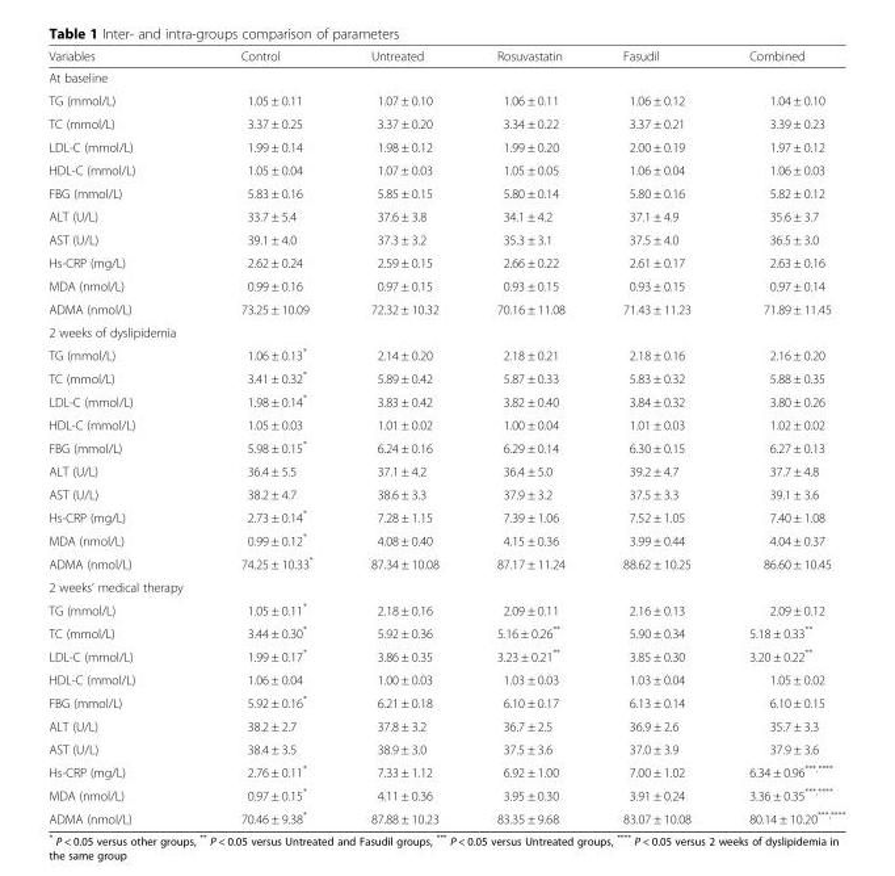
<table><thead><tr><td>Variables</td><td>Control</td><td>Untreated</td><td>Rosuvastatin</td><td>Fasudil</td><td>Combined</td></tr></thead><tbody><tr><td colspan="6">At baseline</td></tr><tr><td>TG (mmol/L)</td><td>1.05 ± 0.11</td><td>1.07 ± 0.10</td><td>1.06 ± 0.11</td><td>1.06 ± 0.12</td><td>1.04 ± 0.10</td></tr><tr><td>TC (mmol/L)</td><td>3.37 ± 0.25</td><td>3.37 ± 0.20</td><td>3.34 ± 0.22</td><td>3.37 ± 0.21</td><td>3.39 ± 0.23</td></tr><tr><td>LDL-C (mmol/L)</td><td>1.99 ± 0.14</td><td>1.98 ± 0.12</td><td>1.99 ± 0.20</td><td>2.00 ± 0.19</td><td>1.97 ± 0.12</td></tr><tr><td>HDL-C (mmol/L)</td><td>1.05 ± 0.04</td><td>1.07 ± 0.03</td><td>1.05 ± 0.05</td><td>1.06 ± 0.04</td><td>1.06 ± 0.03</td></tr><tr><td>FBG (mmol/L)</td><td>5.83 ± 0.16</td><td>5.85 ± 0.15</td><td>5.80 ± 0.14</td><td>5.80 ± 0.16</td><td>5.82 ± 0.12</td></tr><tr><td>ALT (U/L)</td><td>33.7 ± 5.4</td><td>37.6 ± 3.8</td><td>34.1 ± 4.2</td><td>37.1 ± 4.9</td><td>35.6 ± 3.7</td></tr><tr><td>AST (U/L)</td><td>39.1 ± 4.0</td><td>37.3 ± 3.2</td><td>35.3 ± 3.1</td><td>37.5 ± 4.0</td><td>36.5 ± 3.0</td></tr><tr><td>Hs-CRP (mg/L)</td><td>2.62 ± 0.24</td><td>2.59 ± 0.15</td><td>2.66 ± 0.22</td><td>2.61 ± 0.17</td><td>2.63 ± 0.16</td></tr><tr><td>MDA (nmol/L)</td><td>0.99 ± 0.16</td><td>0.97 ± 0.15</td><td>0.93 ± 0.15</td><td>0.93 ± 0.15</td><td>0.97 ± 0.14</td></tr><tr><td>ADMA (nmol/L)</td><td>73.25 ± 10.09</td><td>72.32 ± 10.32</td><td>70.16 ± 11.08</td><td>71.43 ± 11.23</td><td>71.89 ± 11.45</td></tr><tr><td colspan="6">2 weeks of dyslipidemia</td></tr><tr><td>TG (mmol/L)</td><td>1.06 ± 0.13*</td><td>2.14 ± 0.20</td><td>2.18 ± 0.21</td><td>2.18 ± 0.16</td><td>2.16 ± 0.20</td></tr><tr><td>TC (mmol/L)</td><td>3.41 ± 0.32*</td><td>5.89 ± 0.42</td><td>5.87 ± 0.33</td><td>5.83 ± 0.32</td><td>5.88 ± 0.35</td></tr><tr><td>LDL-C (mmol/L)</td><td>1.98 ± 0.14*</td><td>3.83 ± 0.42</td><td>3.82 ± 0.40</td><td>3.84 ± 0.32</td><td>3.80 ± 0.26</td></tr><tr><td>HDL-C (mmol/L)</td><td>1.05 ± 0.03</td><td>1.01 ± 0.02</td><td>1.00 ± 0.04</td><td>1.01 ± 0.03</td><td>1.02 ± 0.02</td></tr><tr><td>FBG (mmol/L)</td><td>5.98 ± 0.15*</td><td>6.24 ± 0.16</td><td>6.29 ± 0.14</td><td>6.30 ± 0.15</td><td>6.27 ± 0.13</td></tr><tr><td>ALT (U/L)</td><td>36.4 ± 5.5</td><td>37.1 ± 4.2</td><td>36.4 ± 5.0</td><td>39.2 ± 4.7</td><td>37.7 ± 4.8</td></tr><tr><td>AST (U/L)</td><td>38.2 ± 4.7</td><td>38.6 ± 3.3</td><td>37.9 ± 3.2</td><td>37.5 ± 3.3</td><td>39.1 ± 3.6</td></tr><tr><td>Hs-CRP (mg/L)</td><td>2.73 ± 0.14*</td><td>7.28 ± 1.15</td><td>7.39 ± 1.06</td><td>7.52 ± 1.05</td><td>7.40 ± 1.08</td></tr><tr><td>MDA (nmol/L)</td><td>0.99 ± 0.12*</td><td>4.08 ± 0.40</td><td>4.15 ± 0.36</td><td>3.99 ± 0.44</td><td>4.04 ± 0.37</td></tr><tr><td>ADMA (nmol/L)</td><td>74.25 ± 10.33*</td><td>87.34 ± 10.08</td><td>87.17 ± 11.24</td><td>88.62 ± 10.25</td><td>86.60 ± 10.45</td></tr><tr><td colspan="6">2 weeks’ medical therapy</td></tr><tr><td>TG (mmol/L)</td><td>1.05 ± 0.11*</td><td>2.18 ± 0.16</td><td>2.09 ± 0.11</td><td>2.16 ± 0.13</td><td>2.09 ± 0.12</td></tr><tr><td>TC (mmol/L)</td><td>3.44 ± 0.30*</td><td>5.92 ± 0.36</td><td>5.16 ± 0.26**</td><td>5.90 ± 0.34</td><td>5.18 ± 0.33**</td></tr><tr><td>LDL-C (mmol/L)</td><td>1.99 ± 0.17*</td><td>3.86 ± 0.35</td><td>3.23 ± 0.21**</td><td>3.85 ± 0.30</td><td>3.20 ± 0.22**</td></tr><tr><td>HDL-C (mmol/L)</td><td>1.06 ± 0.04</td><td>1.00 ± 0.03</td><td>1.03 ± 0.03</td><td>1.03 ± 0.04</td><td>1.05 ± 0.02</td></tr><tr><td>FBG (mmol/L)</td><td>5.92 ± 0.16*</td><td>6.21 ± 0.18</td><td>6.10 ± 0.17</td><td>6.13 ± 0.14</td><td>6.10 ± 0.15</td></tr><tr><td>ALT (U/L)</td><td>38.2 ± 2.7</td><td>37.8 ± 3.2</td><td>36.7 ± 2.5</td><td>36.9 ± 2.6</td><td>35.7 ± 3.3</td></tr><tr><td>AST (U/L)</td><td>38.4 ± 3.5</td><td>38.9 ± 3.0</td><td>37.5 ± 3.6</td><td>37.0 ± 3.9</td><td>37.9 ± 3.6</td></tr><tr><td>Hs-CRP (mg/L)</td><td>2.76 ± 0.11*</td><td>7.33 ± 1.12</td><td>6.92 ± 1.00</td><td>7.00 ± 1.02</td><td>6.34 ± 0.96<sup>***,****</sup></td></tr><tr><td>MDA (nmol/L)</td><td>0.97 ± 0.15*</td><td>4.11 ± 0.36</td><td>3.95 ± 0.30</td><td>3.91 ± 0.24</td><td>3.36 ± 0.35<sup>***,****</sup></td></tr><tr><td>ADMA (nmol/L)</td><td>70.46 ± 9.38*</td><td>87.88 ± 10.23</td><td>83.35 ± 9.68</td><td>83.07 ± 10.08</td><td>80.14 ± 10.20<sup>***,****</sup></td></tr></tbody></table>